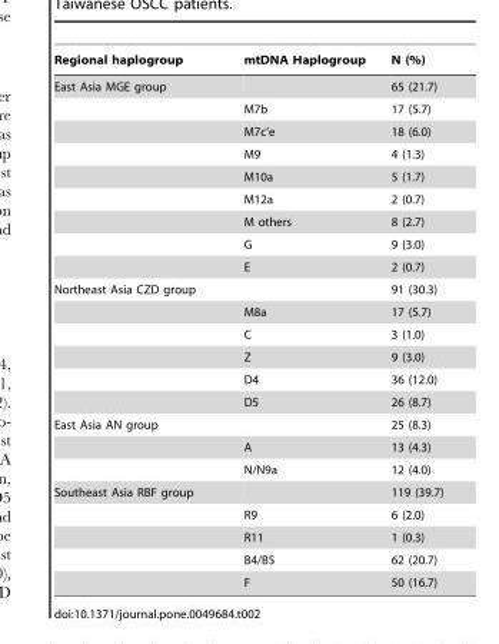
<table><thead><tr><td>Regional haplogroup</td><td>mtDNA Haplogroup</td><td>N (%)</td></tr></thead><tbody><tr><td rowspan="9">East Asia MGE group</td><td></td><td>65 (21.7)</td></tr><tr><td>M7b</td><td>17 (5.7)</td></tr><tr><td>M7c’e</td><td>18 (6.0)</td></tr><tr><td>M9</td><td>4 (1.3)</td></tr><tr><td>M10a</td><td>5 (1.7)</td></tr><tr><td>M12a</td><td>2 (0.7)</td></tr><tr><td>M others</td><td>8 (2.7)</td></tr><tr><td>G</td><td>9 (3.0)</td></tr><tr><td>E</td><td>2 (0.7)</td></tr><tr><td rowspan="6">Northeast Asia CZD group</td><td></td><td>91 (30.3)</td></tr><tr><td>M8a</td><td>17 (5.7)</td></tr><tr><td>C</td><td>3 (1.0)</td></tr><tr><td>Z</td><td>9 (3.0)</td></tr><tr><td>D4</td><td>36 (12.0)</td></tr><tr><td>D5</td><td>26 (8.7)</td></tr><tr><td rowspan="3">East Asia AN group</td><td></td><td>25 (8.3)</td></tr><tr><td>A</td><td>13 (4.3)</td></tr><tr><td>N/N9a</td><td>12 (4.0)</td></tr><tr><td rowspan="5">Southeast Asia RBF group</td><td></td><td>119 (39.7)</td></tr><tr><td>R9</td><td>6 (2.0)</td></tr><tr><td>R11</td><td>1 (0.3)</td></tr><tr><td>B4/B5</td><td>62 (20.7)</td></tr><tr><td>F</td><td>50 (16.7)</td></tr></tbody></table>